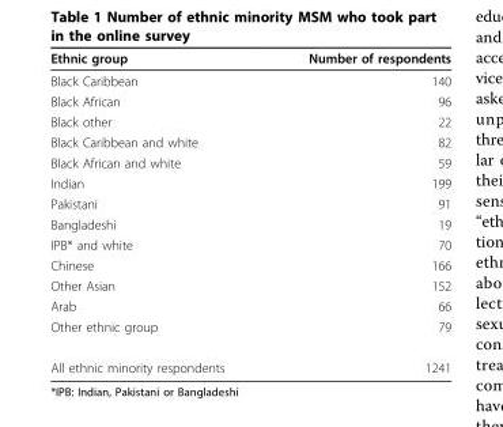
<table><thead><tr><td>Ethnic group</td><td>Number of respondents</td></tr></thead><tbody><tr><td>Black Caribbean</td><td>140</td></tr><tr><td>Black African</td><td>96</td></tr><tr><td>Black other</td><td>22</td></tr><tr><td>Black Caribbean and white</td><td>82</td></tr><tr><td>Black African and white</td><td>59</td></tr><tr><td>Indian</td><td>199</td></tr><tr><td>Pakistani</td><td>91</td></tr><tr><td>Bangladeshi</td><td>19</td></tr><tr><td>IPB* and white</td><td>70</td></tr><tr><td>Chinese</td><td>166</td></tr><tr><td>Other Asian</td><td>152</td></tr><tr><td>Arab</td><td>66</td></tr><tr><td>Other ethnic group</td><td>79</td></tr><tr><td>All ethnic minority respondents</td><td>1241</td></tr></tbody></table>